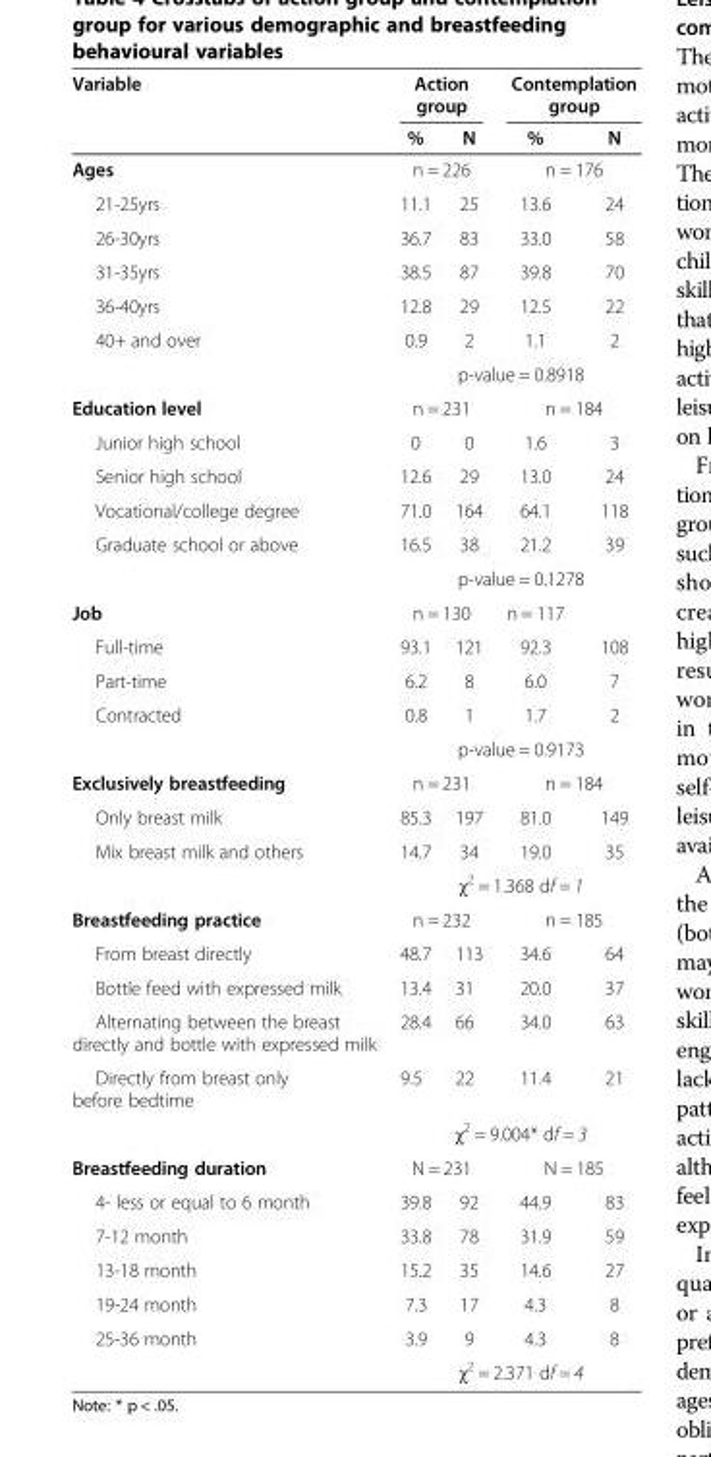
<table><thead><tr><td rowspan="2">Variable</td><td colspan="2">Action group</td><td colspan="2">Contemplation group</td></tr><tr><td>%</td><td>N</td><td>%</td><td>N</td></tr></thead><tbody><tr><td>Ages</td><td colspan="2">n = 226</td><td colspan="2">n = 176</td></tr><tr><td>21-25yrs</td><td>11.1</td><td>25</td><td>13.6</td><td>24</td></tr><tr><td>26-30yrs</td><td>36.7</td><td>83</td><td>33.0</td><td>58</td></tr><tr><td>31-35yrs</td><td>38.5</td><td>87</td><td>39.8</td><td>70</td></tr><tr><td>36-40yrs</td><td>12.8</td><td>29</td><td>12.5</td><td>22</td></tr><tr><td rowspan="2">40+ and over</td><td>0.9</td><td>2</td><td>1.1</td><td>2</td></tr><tr><td colspan="4">p-value = 0.8918</td></tr><tr><td>Education level</td><td colspan="2">n = 231</td><td colspan="2">n = 184</td></tr><tr><td>Junior high school</td><td>0</td><td>0</td><td>1.6</td><td>3</td></tr><tr><td>Senior high school</td><td>12.6</td><td>29</td><td>13.0</td><td>24</td></tr><tr><td>Vocational/college degree</td><td>71.0</td><td>164</td><td>64.1</td><td>118</td></tr><tr><td rowspan="2">Graduate school or above</td><td>16.5</td><td>38</td><td>21.2</td><td>39</td></tr><tr><td colspan="4">p-value = 0.1278</td></tr><tr><td>Job</td><td colspan="2">n = 130</td><td colspan="2">n = 117</td></tr><tr><td>Full-time</td><td>93.1</td><td>121</td><td>92.3</td><td>108</td></tr><tr><td>Part-time</td><td>6.2</td><td>8</td><td>6.0</td><td>7</td></tr><tr><td rowspan="2">Contracted</td><td>0.8</td><td>1</td><td>1.7</td><td>2</td></tr><tr><td colspan="4">p-value = 0.9173</td></tr><tr><td>Exclusively breastfeeding</td><td colspan="2">n = 231</td><td colspan="2">n = 184</td></tr><tr><td>Only breast milk</td><td>85.3</td><td>197</td><td>81.0</td><td>149</td></tr><tr><td rowspan="2">Mix breast milk and others</td><td>14.7</td><td>34</td><td>19.0</td><td>35</td></tr><tr><td colspan="4">χ<sup>2</sup> = 1.368 df = 1</td></tr><tr><td>Breastfeeding practice</td><td colspan="2">n = 232</td><td colspan="2">n = 185</td></tr><tr><td>From breast directly</td><td>48.7</td><td>113</td><td>34.6</td><td>64</td></tr><tr><td>Bottle feed with expressed milk</td><td>13.4</td><td>31</td><td>20.0</td><td>37</td></tr><tr><td>Alternating between the breast directly and bottle with expressed milk</td><td>28.4</td><td>66</td><td>34.0</td><td>63</td></tr><tr><td rowspan="2">Directly from breast only before bedtime</td><td>9.5</td><td>22</td><td>11.4</td><td>21</td></tr><tr><td colspan="4">χ<sup>2</sup> = 9.004* df = 3</td></tr><tr><td>Breastfeeding duration</td><td colspan="2">N = 231</td><td colspan="2">N = 185</td></tr><tr><td>4- less or equal to 6 month</td><td>39.8</td><td>92</td><td>44.9</td><td>83</td></tr><tr><td>7-12 month</td><td>33.8</td><td>78</td><td>31.9</td><td>59</td></tr><tr><td>13-18 month</td><td>15.2</td><td>35</td><td>14.6</td><td>27</td></tr><tr><td>19-24 month</td><td>7.3</td><td>17</td><td>4.3</td><td>8</td></tr><tr><td rowspan="2">25-36 month</td><td>3.9</td><td>9</td><td>4.3</td><td>8</td></tr><tr><td colspan="4">χ<sup>2</sup> = 2.371 df = 4</td></tr></tbody></table>